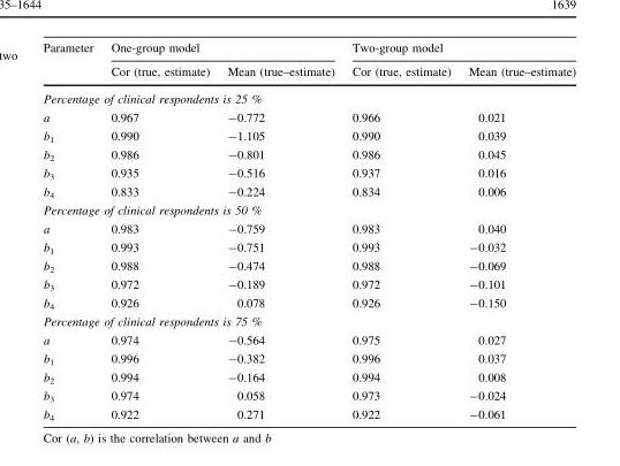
<table><thead><tr><td rowspan="2">Parameter</td><td colspan="2">One-group model</td><td colspan="2">Two-group model</td></tr><tr><td>Cor (true, estimate)</td><td>Mean (true–estimate)</td><td>Cor (true, estimate)</td><td>Mean (true–estimate)</td></tr></thead><tbody><tr><td colspan="5">Percentage of clinical respondents is 25 %</td></tr><tr><td>a</td><td>0.967</td><td>-0.772</td><td>0.966</td><td>0.021</td></tr><tr><td>b<sub>1</sub></td><td>0.990</td><td>-1.105</td><td>0.990</td><td>0.039</td></tr><tr><td>b<sub>2</sub></td><td>0.986</td><td>-0.801</td><td>0.986</td><td>0.045</td></tr><tr><td>b<sub>3</sub></td><td>0.935</td><td>-0.516</td><td>0.937</td><td>0.016</td></tr><tr><td>b<sub>4</sub></td><td>0.833</td><td>-0.224</td><td>0.834</td><td>0.006</td></tr><tr><td colspan="5">Percentage of clinical respondents is 50 %</td></tr><tr><td>a</td><td>0.983</td><td>-0.759</td><td>0.983</td><td>0.040</td></tr><tr><td>b<sub>1</sub></td><td>0.993</td><td>-0.751</td><td>0.993</td><td>-0.032</td></tr><tr><td>b<sub>2</sub></td><td>0.988</td><td>-0.474</td><td>0.988</td><td>-0.069</td></tr><tr><td>b<sub>3</sub></td><td>0.972</td><td>-0.189</td><td>0.972</td><td>-0.101</td></tr><tr><td>b<sub>4</sub></td><td>0.926</td><td>0.078</td><td>0.926</td><td>-0.150</td></tr><tr><td colspan="5">Percentage of clinical respondents is 75 %</td></tr><tr><td>a</td><td>0.974</td><td>-0.564</td><td>0.975</td><td>0.027</td></tr><tr><td>b<sub>1</sub></td><td>0.996</td><td>-0.382</td><td>0.996</td><td>0.037</td></tr><tr><td>b<sub>2</sub></td><td>0.994</td><td>-0.164</td><td>0.994</td><td>0.008</td></tr><tr><td>b<sub>3</sub></td><td>0.974</td><td>0.058</td><td>0.973</td><td>-0.024</td></tr><tr><td>b<sub>4</sub></td><td>0.922</td><td>0.271</td><td>0.922</td><td>-0.061</td></tr></tbody></table>